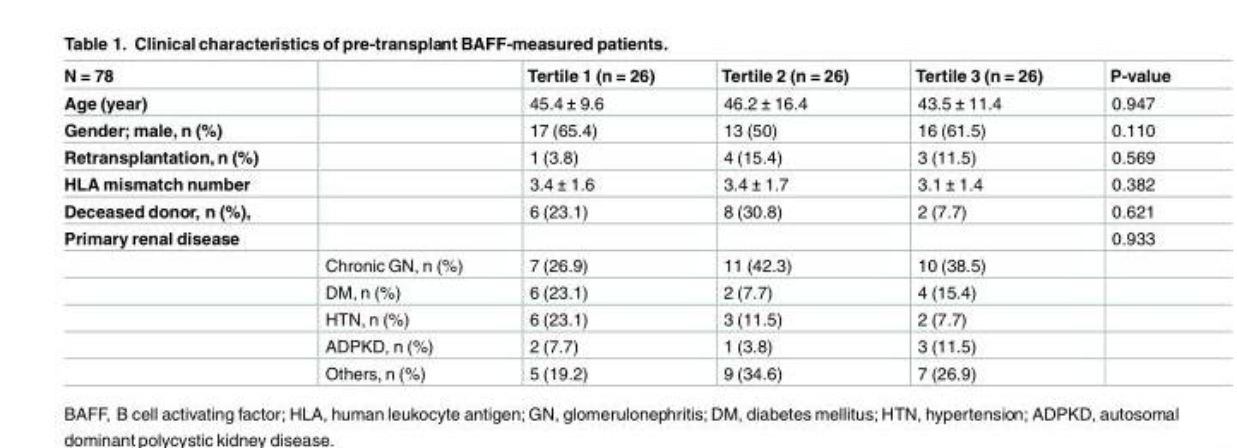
<table><thead><tr><td>N = 78</td><td></td><td>Tertile 1 (n = 26)</td><td>Tertile 2 (n = 26)</td><td>Tertile 3 (n = 26)</td><td>P-value</td></tr></thead><tbody><tr><td>Age (year)</td><td></td><td>45.4 ± 9.6</td><td>46.2 ± 16.4</td><td>43.5 ± 11.4</td><td>0.947</td></tr><tr><td>Gender; male, n (%)</td><td></td><td>17 (65.4)</td><td>13 (50)</td><td>16 (61.5)</td><td>0.110</td></tr><tr><td>Retransplantation, n (%)</td><td></td><td>1 (3.8)</td><td>4 (15.4)</td><td>3 (11.5)</td><td>0.569</td></tr><tr><td>HLA mismatch number</td><td></td><td>3.4 ± 1.6</td><td>3.4 ± 1.7</td><td>3.1 ± 1.4</td><td>0.382</td></tr><tr><td>Deceased donor, n (%),</td><td></td><td>6 (23.1)</td><td>8 (30.8)</td><td>2 (7.7)</td><td>0.621</td></tr><tr><td rowspan="6">Primary renal disease</td><td></td><td></td><td></td><td></td><td>0.933</td></tr><tr><td>Chronic GN, n (%)</td><td>7 (26.9)</td><td>11 (42.3)</td><td>10 (38.5)</td><td></td></tr><tr><td>DM, n (%)</td><td>6 (23.1)</td><td>2 (7.7)</td><td>4 (15.4)</td><td></td></tr><tr><td>HTN, n (%)</td><td>6 (23.1)</td><td>3 (11.5)</td><td>2 (7.7)</td><td></td></tr><tr><td>ADPKD, n (%)</td><td>2 (7.7)</td><td>1 (3.8)</td><td>3 (11.5)</td><td></td></tr><tr><td>Others, n (%)</td><td>5 (19.2)</td><td>9 (34.6)</td><td>7 (26.9)</td><td></td></tr></tbody></table>